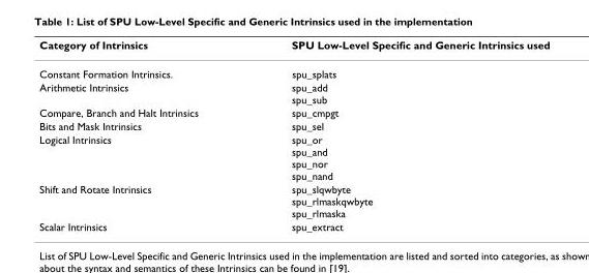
<table><thead><tr><td>Category of Intrinsics</td><td>SPU Low-Level Specific and Generic Intrinsics used</td></tr></thead><tbody><tr><td>Constant Formation Intrinsics.</td><td>spu_splats</td></tr><tr><td>Arithmetic Intrinsics</td><td>spu_add spu_sub</td></tr><tr><td>Compare, Branch and Halt Intrinsics</td><td>spu_cmpgt</td></tr><tr><td>Bits and Mask Intrinsics</td><td>spu_sel</td></tr><tr><td>Logical Intrinsics</td><td>spu_or spu_and spu_nor spu_nand</td></tr><tr><td>Shift and Rotate Intrinsics</td><td>spu_slqwbyte spu_rlmaskqwbyte spu_rlmaska</td></tr><tr><td>Scalar Intrinsics</td><td>spu_extract</td></tr></tbody></table>